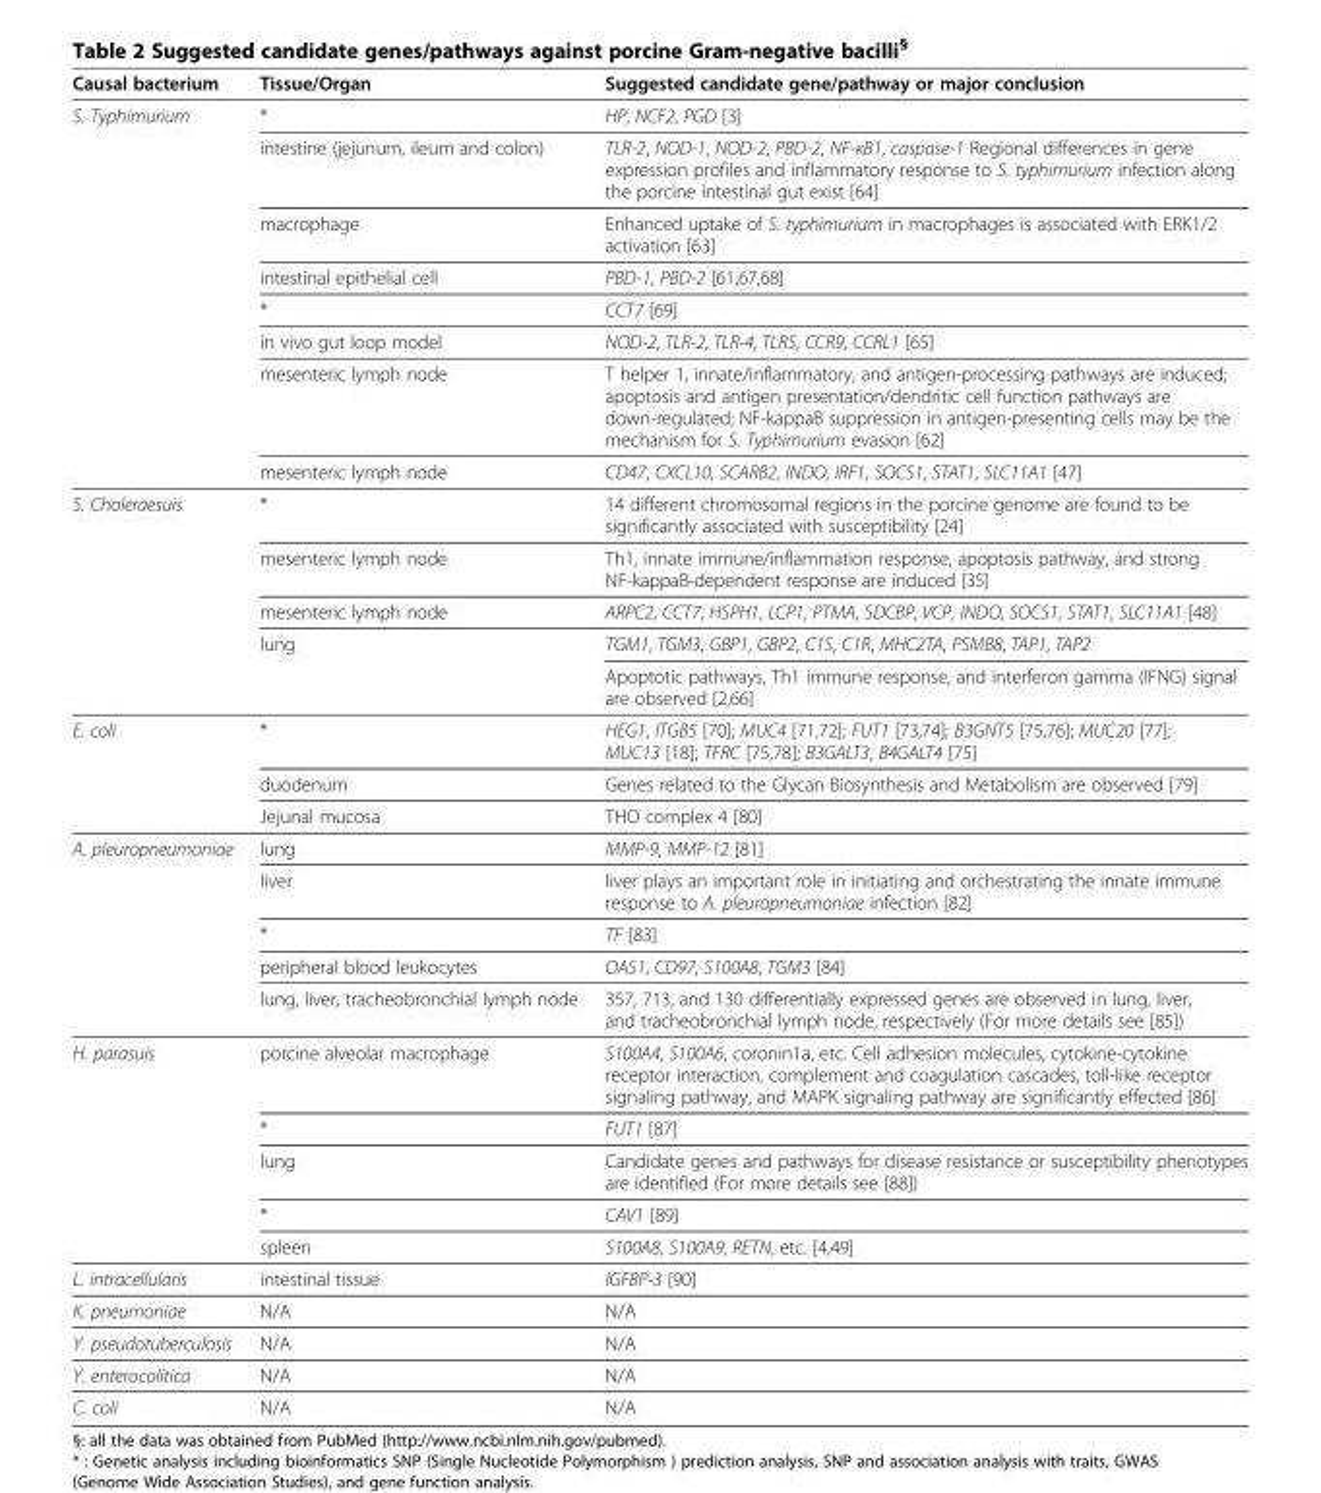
<table><thead><tr><td>Causal bacterium</td><td>Tissue/Organ</td><td>Suggested candidate gene/pathway or major conclusion</td></tr></thead><tbody><tr><td rowspan="8">S. Typhimurium</td><td>*</td><td>HP, NCF2, PGD [3]</td></tr><tr><td>intestine (jejunum, ileum and colon)</td><td>TLR-2, NOD-1, NOD-2, PBD-2, NF-κB1, caspase-1 Regional differences in gene expression profiles and inflammatory response to S. typhimurium infection along the porcine intestinal gut exist [64]</td></tr><tr><td>macrophage</td><td>Enhanced uptake of S. typhimurium in macrophages is associated with ERK1/2 activation [63]</td></tr><tr><td>intestinal epithelial cell</td><td>PBD-1, PBD-2 [61,67,68]</td></tr><tr><td>*</td><td>CCT7 [69]</td></tr><tr><td>in vivo gut loop model</td><td>NOD-2, TLR-2, TLR-4, TLR5, CCR9, CCRL1 [65]</td></tr><tr><td>mesenteric lymph node</td><td>T helper 1, innate/inflammatory, and antigen-processing pathways are induced; apoptosis and antigen presentation/dendritic cell function pathways are down-regulated; NF-kappaB suppression in antigen-presenting cells may be the mechanism for S. Typhimurium evasion [62]</td></tr><tr><td>mesenteric lymph node</td><td>CD47, CXCL10, SCARB2, INDO, IRF1, SOCS1, STAT1, SLC11A1 [47]</td></tr><tr><td rowspan="5">S. Choleraesuis</td><td>*</td><td>14 different chromosomal regions in the porcine genome are found to be significantly associated with susceptibility [24]</td></tr><tr><td>mesenteric lymph node</td><td>Th1, innate immune/inflammation response, apoptosis pathway, and strong NF-kappaB-dependent response are induced [35]</td></tr><tr><td>mesenteric lymph node</td><td>ARPC2, CCT7, HSPH1, LCP1, PTMA, SDCBP, VCP, INDO, SOCS1, STAT1, SLC11A1 [48]</td></tr><tr><td>lung</td><td>TGM1, TGM3, GBP1, GBP2, C1S, C1R, MHC2TA, PSMB8, TAP1, TAP2</td></tr><tr><td></td><td>Apoptotic pathways, Th1 immune response, and interferon gamma (IFNG) signal are observed [2,66]</td></tr><tr><td rowspan="3">E. coli</td><td>*</td><td>HEG1, ITGB5 [70]; MUC4 [71,72]; FUT1 [73,74]; B3GNT5 [75,76]; MUC20 [77]; MUC13 [18]; TFRC [75,78]; B3GALT3, B4GALT4 [75]</td></tr><tr><td>duodenum</td><td>Genes related to the Glycan Biosynthesis and Metabolism are observed [79]</td></tr><tr><td>Jejunal mucosa</td><td>THO complex 4 [80]</td></tr><tr><td rowspan="5">A. pleuropneumoniae</td><td>lung</td><td>MMP-9, MMP-12 [81]</td></tr><tr><td>liver</td><td>liver plays an important role in initiating and orchestrating the innate immune response to A. pleuropneumoniae infection [82]</td></tr><tr><td>*</td><td>TF [83]</td></tr><tr><td>peripheral blood leukocytes</td><td>OAS1, CD97, S100A8, TGM3 [84]</td></tr><tr><td>lung, liver, tracheobronchial lymph node</td><td>357, 713, and 130 differentially expressed genes are observed in lung, liver, and tracheobronchial lymph node, respectively (For more details see [85])</td></tr><tr><td rowspan="5">H. parasuis</td><td>porcine alveolar macrophage</td><td>S100A4, S100A6, coronin1a, etc. Cell adhesion molecules, cytokine-cytokine receptor interaction, complement and coagulation cascades, toll-like receptor signaling pathway, and MAPK signaling pathway are significantly effected [86]</td></tr><tr><td>*</td><td>FUT1 [87]</td></tr><tr><td>lung</td><td>Candidate genes and pathways for disease resistance or susceptibility phenotypes are identified (For more details see [88])</td></tr><tr><td>*</td><td>CAV1 [89]</td></tr><tr><td>spleen</td><td>S100A8, S100A9, RETN, etc. [4,49]</td></tr><tr><td>L. intracellularis</td><td>intestinal tissue</td><td>IGFBP-3 [90]</td></tr><tr><td>K. pneumoniae</td><td>N/A</td><td>N/A</td></tr><tr><td>Y. pseudotuberculosis</td><td>N/A</td><td>N/A</td></tr><tr><td>Y. enterocolitica</td><td>N/A</td><td>N/A</td></tr><tr><td>C. coli</td><td>N/A</td><td>N/A</td></tr></tbody></table>